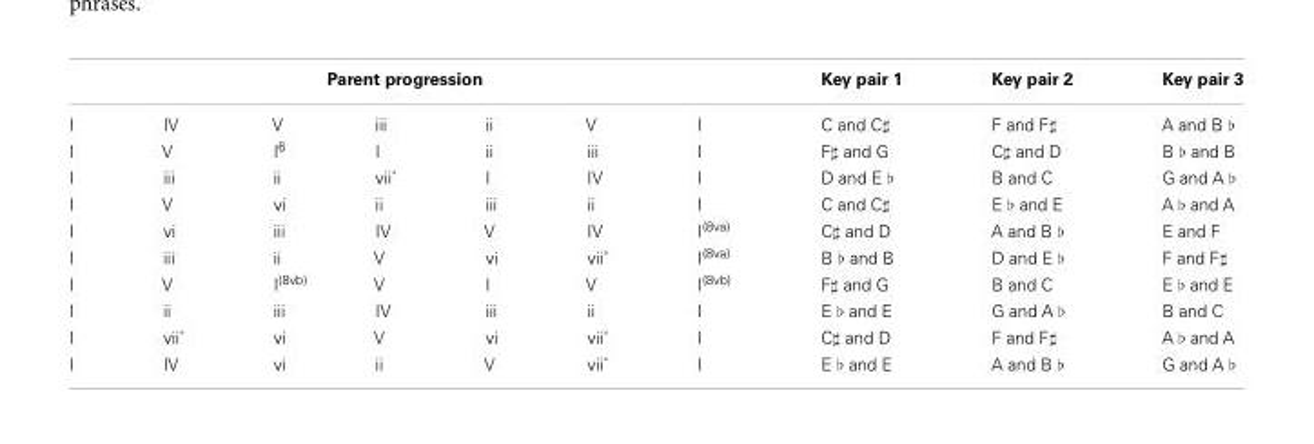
<table><thead><tr><td colspan="7">Parent progression</td><td rowspan="2">Key pair 1 C and C♯</td><td rowspan="2">Key pair 2 F and F♯</td><td rowspan="2">Key pair 3 A and B ♭</td></tr><tr><td>I</td><td>IV</td><td>V</td><td>iii</td><td>ii</td><td>V</td><td>I</td></tr></thead><tbody><tr><td>I</td><td>V</td><td>I<sup>6</sup></td><td>I</td><td>ii</td><td>iii</td><td>I</td><td>F♯ and G</td><td>C♯ and D</td><td>B ♭ and B</td></tr><tr><td>I</td><td>iii</td><td>ii</td><td>vii˚</td><td>I</td><td>IV</td><td>I</td><td>D and E ♭</td><td>B and C</td><td>G and A ♭</td></tr><tr><td>I</td><td>V</td><td>vi</td><td>ii</td><td>iii</td><td>ii</td><td>I</td><td>C and C♯</td><td>E ♭ and E</td><td>A ♭ and A</td></tr><tr><td>I</td><td>vi</td><td>iii</td><td>IV</td><td>V</td><td>IV</td><td>I<sup>(8va)</sup></td><td>C♯ and D</td><td>A and B ♭</td><td>E and F</td></tr><tr><td>I</td><td>iii</td><td>ii</td><td>V</td><td>vi</td><td>vii˚</td><td>I<sup>(8va)</sup></td><td>B ♭ and B</td><td>D and E ♭</td><td>F and F♯</td></tr><tr><td>I</td><td>V</td><td>I<sup>(8vb)</sup></td><td>V</td><td>I</td><td>V</td><td>I<sup>(8vb)</sup></td><td>F♯ and G</td><td>B and C</td><td>E ♭ and E</td></tr><tr><td>I</td><td>ii</td><td>iii</td><td>IV</td><td>iii</td><td>ii</td><td>I</td><td>E ♭ and E</td><td>G and A ♭</td><td>B and C</td></tr><tr><td>I</td><td>vii˚</td><td>vi</td><td>V</td><td>vi</td><td>vii˚</td><td>I</td><td>C♯ and D</td><td>F and F♯</td><td>A ♭ and A</td></tr><tr><td>I</td><td>IV</td><td>vi</td><td>ii</td><td>V</td><td>vii˚</td><td>I</td><td>E ♭ and E</td><td>A and B ♭</td><td>G and A ♭</td></tr></tbody></table>